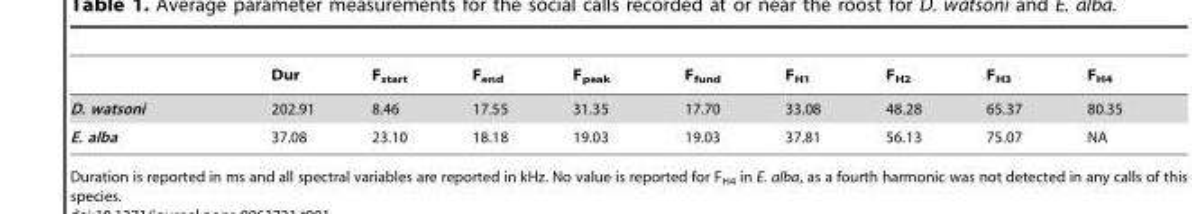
<table><thead><tr><td></td><td>Dur</td><td>F<sub>start</sub></td><td>F<sub>end</sub></td><td>F<sub>peak</sub></td><td>F<sub>fund</sub></td><td>F<sub>H1</sub></td><td>F<sub>H2</sub></td><td>F<sub>H3</sub></td><td>F<sub>H4</sub></td></tr></thead><tbody><tr><td>D. watsoni</td><td>202.91</td><td>8.46</td><td>17.55</td><td>31.35</td><td>17.70</td><td>33.08</td><td>48.28</td><td>65.37</td><td>80.35</td></tr><tr><td>E. alba</td><td>37.08</td><td>23.10</td><td>18.18</td><td>19.03</td><td>19.03</td><td>37.81</td><td>56.13</td><td>75.07</td><td>NA</td></tr></tbody></table>